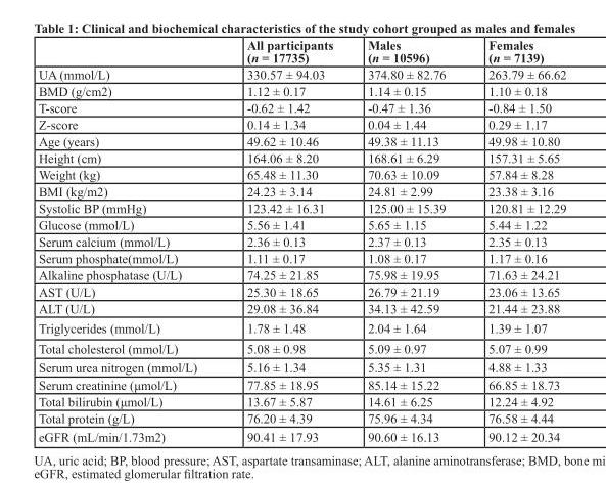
<table><thead><tr><td></td><td>All participants (n = 17735)</td><td>Males (n = 10596)</td><td>Females (n = 7139)</td></tr></thead><tbody><tr><td>UA (mmol/L)</td><td>330.57 ± 94.03</td><td>374.80 ± 82.76</td><td>263.79 ± 66.62</td></tr><tr><td>BMD (g/cm2)</td><td>1.12 ± 0.17</td><td>1.14 ± 0.15</td><td>1.10 ± 0.18</td></tr><tr><td>T-score</td><td>-0.62 ± 1.42</td><td>-0.47 ± 1.36</td><td>-0.84 ± 1.50</td></tr><tr><td>Z-score</td><td>0.14 ± 1.34</td><td>0.04 ± 1.44</td><td>0.29 ± 1.17</td></tr><tr><td>Age (years)</td><td>49.62 ± 10.46</td><td>49.38 ± 11.13</td><td>49.98 ± 10.80</td></tr><tr><td>Height (cm)</td><td>164.06 ± 8.20</td><td>168.61 ± 6.29</td><td>157.31 ± 5.65</td></tr><tr><td>Weight (kg)</td><td>65.48 ± 11.30</td><td>70.63 ± 10.09</td><td>57.84 ± 8.28</td></tr><tr><td>BMI (kg/m2)</td><td>24.23 ± 3.14</td><td>24.81 ± 2.99</td><td>23.38 ± 3.16</td></tr><tr><td>Systolic BP (mmHg)</td><td>123.42 ± 16.31</td><td>125.00 ± 15.39</td><td>120.81 ± 12.29</td></tr><tr><td>Glucose (mmol/L)</td><td>5.56 ± 1.41</td><td>5.65 ± 1.15</td><td>5.44 ± 1.22</td></tr><tr><td>Serum calcium (mmol/L)</td><td>2.36 ± 0.13</td><td>2.37 ± 0.13</td><td>2.35 ± 0.13</td></tr><tr><td>Serum phosphate(mmol/L)</td><td>1.11 ± 0.17</td><td>1.08 ± 0.17</td><td>1.17 ± 0.16</td></tr><tr><td>Alkaline phosphatase (U/L)</td><td>74.25 ± 21.85</td><td>75.98 ± 19.95</td><td>71.63 ± 24.21</td></tr><tr><td>AST (U/L)</td><td>25.30 ± 18.65</td><td>26.79 ± 21.19</td><td>23.06 ± 13.65</td></tr><tr><td>ALT (U/L)</td><td>29.08 ± 36.84</td><td>34.13 ± 42.59</td><td>21.44 ± 23.88</td></tr><tr><td>Triglycerides (mmol/L)</td><td>1.78 ± 1.48</td><td>2.04 ± 1.64</td><td>1.39 ± 1.07</td></tr><tr><td>Total cholesterol (mmol/L)</td><td>5.08 ± 0.98</td><td>5.09 ± 0.97</td><td>5.07 ± 0.99</td></tr><tr><td>Serum urea nitrogen (mmol/L)</td><td>5.16 ± 1.34</td><td>5.35 ± 1.31</td><td>4.88 ± 1.33</td></tr><tr><td>Serum creatinine (μmol/L)</td><td>77.85 ± 18.95</td><td>85.14 ± 15.22</td><td>66.85 ± 18.73</td></tr><tr><td>Total bilirubin (μmol/L)</td><td>13.67 ± 5.87</td><td>14.61 ± 6.25</td><td>12.24 ± 4.92</td></tr><tr><td>Total protein (g/L)</td><td>76.20 ± 4.39</td><td>75.96 ± 4.34</td><td>76.58 ± 4.44</td></tr><tr><td>eGFR (mL/min/1.73m2)</td><td>90.41 ± 17.93</td><td>90.60 ± 16.13</td><td>90.12 ± 20.34</td></tr></tbody></table>